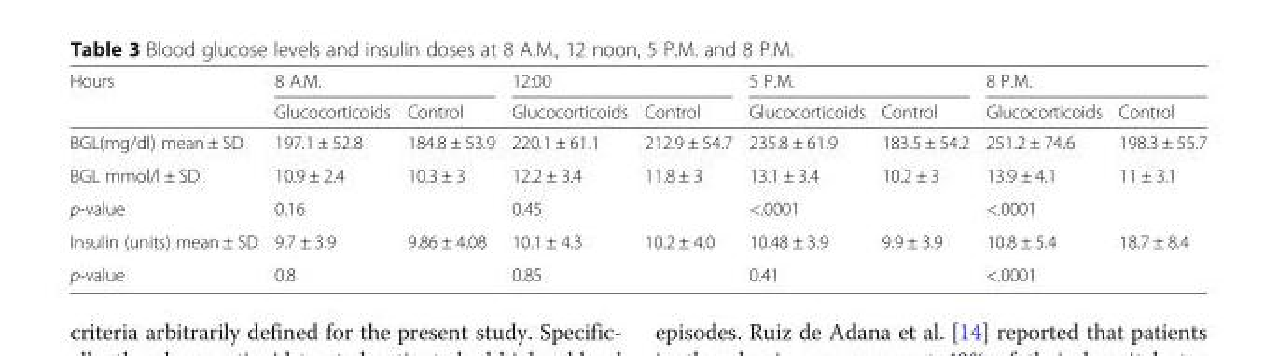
<table><thead><tr><td rowspan="2">Hours</td><td colspan="2">8 A.M.</td><td colspan="2">12:00</td><td colspan="2">5 P.M.</td><td colspan="2">8 P.M.</td></tr><tr><td>Glucocorticoids</td><td>Control</td><td>Glucocorticoids</td><td>Control</td><td>Glucocorticoids</td><td>Control</td><td>Glucocorticoids</td><td>Control</td></tr></thead><tbody><tr><td>BGL(mg/dl) mean ± SD</td><td>197.1 ± 52.8</td><td>184.8 ± 53.9</td><td>220.1 ± 61.1</td><td>212.9 ± 54.7</td><td>235.8 ± 61.9</td><td>183.5 ± 54.2</td><td>251.2 ± 74.6</td><td>198.3 ± 55.7</td></tr><tr><td>BGL mmol/l ± SD</td><td>10.9 ± 2.4</td><td>10.3 ± 3</td><td>12.2 ± 3.4</td><td>11.8 ± 3</td><td>13.1 ± 3.4</td><td>10.2 ± 3</td><td>13.9 ± 4.1</td><td>11 ± 3.1</td></tr><tr><td>p-value</td><td>0.16</td><td></td><td>0.45</td><td></td><td>&lt;.0001</td><td></td><td>&lt;.0001</td><td></td></tr><tr><td>Insulin (units) mean ± SD</td><td>9.7 ± 3.9</td><td>9.86 ± 4.08</td><td>10.1 ± 4.3</td><td>10.2 ± 4.0</td><td>10.48 ± 3.9</td><td>9.9 ± 3.9</td><td>10.8 ± 5.4</td><td>18.7 ± 8.4</td></tr><tr><td>p-value</td><td>0.8</td><td></td><td>0.85</td><td></td><td>0.41</td><td></td><td>&lt;.0001</td><td></td></tr></tbody></table>